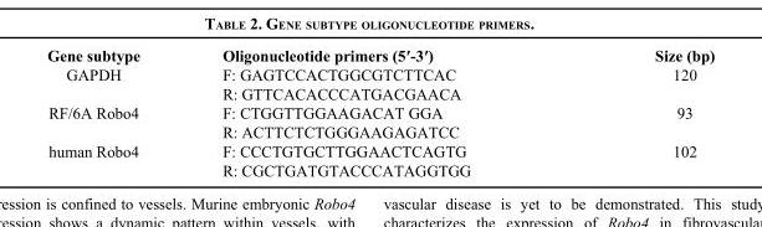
<table><thead><tr><td>Gene subtype</td><td>Oligonucleotide primers (5′-3′)</td><td>Size (bp)</td></tr></thead><tbody><tr><td rowspan="2">GAPDH</td><td>F: GAGTCCACTGGCGTCTTCAC</td><td rowspan="2">120</td></tr><tr><td>R: GTTCACACCCATGACGAACA</td></tr><tr><td rowspan="2">RF/6A Robo4</td><td>F: CTGGTTGGAAGACAT GGA</td><td rowspan="2">93</td></tr><tr><td>R: ACTTCTCTGGGAAGAGATCC</td></tr><tr><td rowspan="2">human Robo4</td><td>F: CCCTGTGCTTGGAACTCAGTG</td><td rowspan="2">102</td></tr><tr><td>R: CGCTGATGTACCCATAGGTGG</td></tr></tbody></table>